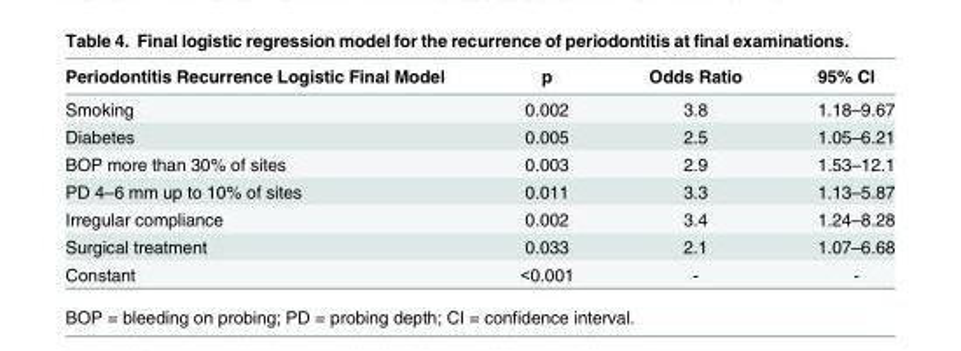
<table><thead><tr><td>Periodontitis Recurrence Logistic Final Model</td><td>p</td><td>Odds Ratio</td><td>95% CI</td></tr></thead><tbody><tr><td>Smoking</td><td>0.002</td><td>3.8</td><td>1.18–9.67</td></tr><tr><td>Diabetes</td><td>0.005</td><td>2.5</td><td>1.05–6.21</td></tr><tr><td>BOP more than 30% of sites</td><td>0.003</td><td>2.9</td><td>1.53–12.1</td></tr><tr><td>PD 4–6 mm up to 10% of sites</td><td>0.011</td><td>3.3</td><td>1.13–5.87</td></tr><tr><td>Irregular compliance</td><td>0.002</td><td>3.4</td><td>1.24–8.28</td></tr><tr><td>Surgical treatment</td><td>0.033</td><td>2.1</td><td>1.07–6.68</td></tr><tr><td>Constant</td><td>&lt;0.001</td><td>-</td><td>-</td></tr></tbody></table>